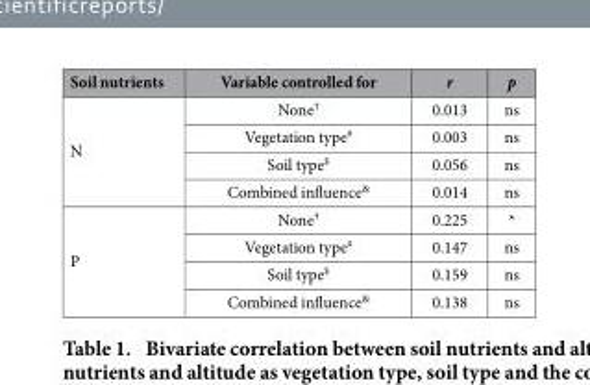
<table><thead><tr><td>Soil nutrients</td><td>Variable controlled for</td><td>r</td><td>p</td></tr></thead><tbody><tr><td rowspan="4">N</td><td>None<sup>†</sup></td><td>0.013</td><td>ns</td></tr><tr><td>Vegetation type<sup>#</sup></td><td>0.003</td><td>ns</td></tr><tr><td>Soil type<sup>$</sup></td><td>0.056</td><td>ns</td></tr><tr><td>Combined influence<sup>&amp;</sup></td><td>0.014</td><td>ns</td></tr><tr><td rowspan="4">P</td><td>None<sup>†</sup></td><td>0.225</td><td>*</td></tr><tr><td>Vegetation type<sup>#</sup></td><td>0.147</td><td>ns</td></tr><tr><td>Soil type<sup>$</sup></td><td>0.159</td><td>ns</td></tr><tr><td>Combined influence<sup>&amp;</sup></td><td>0.138</td><td>ns</td></tr></tbody></table>